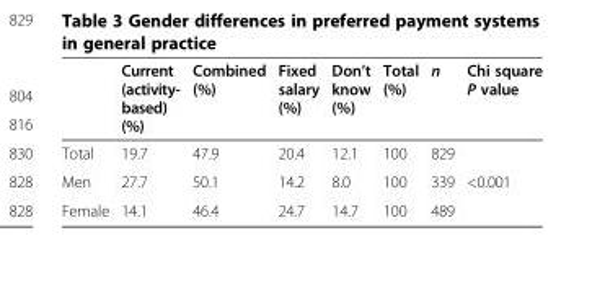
<table><thead><tr><td></td><td>Current (activity- based) (%)</td><td>Combined (%)</td><td>Fixed salary (%)</td><td>Don’t know (%)</td><td>Total (%)</td><td>n</td><td>Chi square P value</td></tr></thead><tbody><tr><td>Total</td><td>19.7</td><td>47.9</td><td>20.4</td><td>12.1</td><td>100</td><td>829</td><td></td></tr><tr><td>Men</td><td>27.7</td><td>50.1</td><td>14.2</td><td>8.0</td><td>100</td><td>339</td><td>&lt;0.001</td></tr><tr><td>Female</td><td>14.1</td><td>46.4</td><td>24.7</td><td>14.7</td><td>100</td><td>489</td><td></td></tr></tbody></table>